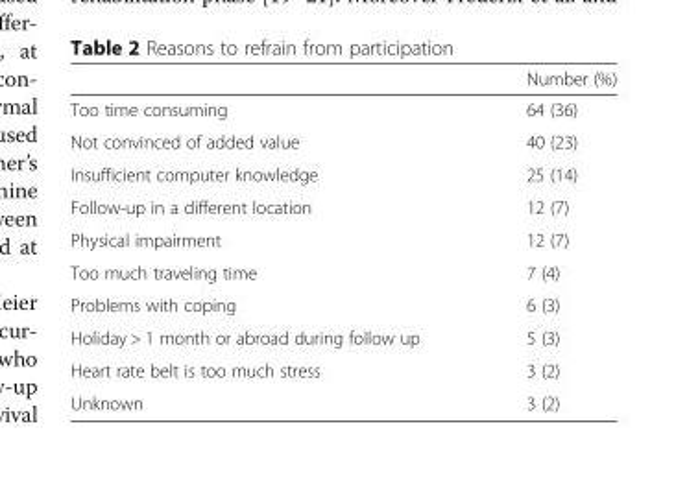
<table><thead><tr><td></td><td>Number (%)</td></tr></thead><tbody><tr><td>Too time consuming</td><td>64 (36)</td></tr><tr><td>Not convinced of added value</td><td>40 (23)</td></tr><tr><td>Insufficient computer knowledge</td><td>25 (14)</td></tr><tr><td>Follow-up in a different location</td><td>12 (7)</td></tr><tr><td>Physical impairment</td><td>12 (7)</td></tr><tr><td>Too much traveling time</td><td>7 (4)</td></tr><tr><td>Problems with coping</td><td>6 (3)</td></tr><tr><td>Holiday &gt; 1 month or abroad during follow up</td><td>5 (3)</td></tr><tr><td>Heart rate belt is too much stress</td><td>3 (2)</td></tr><tr><td>Unknown</td><td>3 (2)</td></tr></tbody></table>